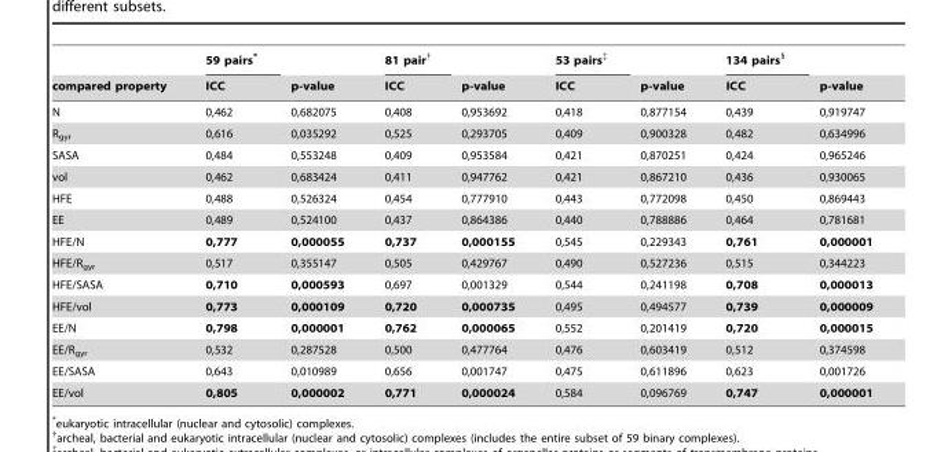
<table><thead><tr><td rowspan="2">compared property</td><td rowspan="2">59 pairs* ICC</td><td rowspan="2">p-value</td><td rowspan="2">81 pair† ICC</td><td rowspan="2">p-value</td><td rowspan="2">53 pairs‡ ICC</td><td rowspan="2">p-value</td><td rowspan="2">134 pairs§ ICC</td><td rowspan="2">p-value</td></tr><tr></tr></thead><tbody><tr><td>N</td><td>0,462</td><td>0,682075</td><td>0,408</td><td>0,953692</td><td>0,418</td><td>0,877154</td><td>0,439</td><td>0,919747</td></tr><tr><td>R<sub>gyr</sub></td><td>0,616</td><td>0,035292</td><td>0,525</td><td>0,293705</td><td>0,409</td><td>0,900328</td><td>0,482</td><td>0,634996</td></tr><tr><td>SASA</td><td>0,484</td><td>0,553248</td><td>0,409</td><td>0,953584</td><td>0,421</td><td>0,870251</td><td>0,424</td><td>0,965246</td></tr><tr><td>vol</td><td>0,462</td><td>0,683424</td><td>0,411</td><td>0,947762</td><td>0,421</td><td>0,867210</td><td>0,436</td><td>0,930065</td></tr><tr><td>HFE</td><td>0,488</td><td>0,526324</td><td>0,454</td><td>0,777910</td><td>0,443</td><td>0,772098</td><td>0,450</td><td>0,869443</td></tr><tr><td>EE</td><td>0,489</td><td>0,524100</td><td>0,437</td><td>0,864386</td><td>0,440</td><td>0,788886</td><td>0,464</td><td>0,781681</td></tr><tr><td>HFE/N</td><td>0,777</td><td>0,000055</td><td>0,737</td><td>0,000155</td><td>0,545</td><td>0,229343</td><td>0,761</td><td>0,000001</td></tr><tr><td>HFE/R<sub>gyr</sub></td><td>0,517</td><td>0,355147</td><td>0,505</td><td>0,429767</td><td>0,490</td><td>0,527236</td><td>0,515</td><td>0,344223</td></tr><tr><td>HFE/SASA</td><td>0,710</td><td>0,000593</td><td>0,697</td><td>0,001329</td><td>0,544</td><td>0,241198</td><td>0,708</td><td>0,000013</td></tr><tr><td>HFE/vol</td><td>0,773</td><td>0,000109</td><td>0,720</td><td>0,000735</td><td>0,495</td><td>0,494577</td><td>0,739</td><td>0,000009</td></tr><tr><td>EE/N</td><td>0,798</td><td>0,000001</td><td>0,762</td><td>0,000065</td><td>0,552</td><td>0,201419</td><td>0,720</td><td>0,000015</td></tr><tr><td>EE/R<sub>gyr</sub></td><td>0,532</td><td>0,287528</td><td>0,500</td><td>0,477764</td><td>0,476</td><td>0,603419</td><td>0,512</td><td>0,374598</td></tr><tr><td>EE/SASA</td><td>0,643</td><td>0,010989</td><td>0,656</td><td>0,001747</td><td>0,475</td><td>0,611896</td><td>0,623</td><td>0,001726</td></tr><tr><td>EE/vol</td><td>0,805</td><td>0,000002</td><td>0,771</td><td>0,000024</td><td>0,584</td><td>0,096769</td><td>0,747</td><td>0,000001</td></tr></tbody></table>